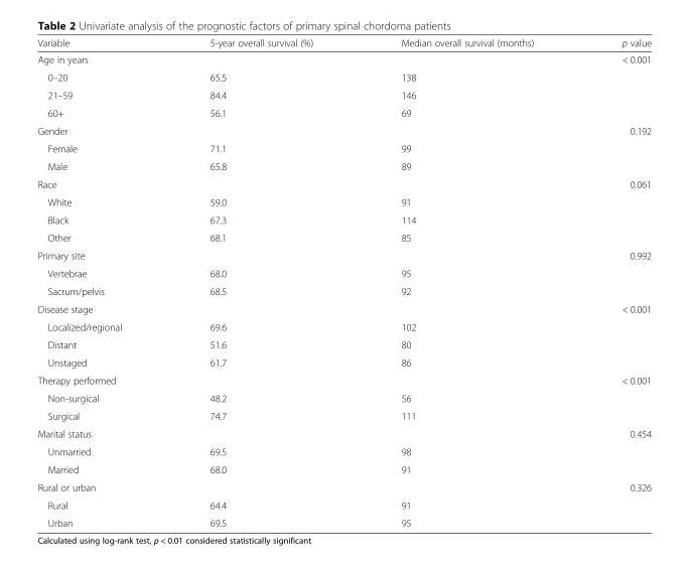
<table><thead><tr><td>Variable</td><td>5-year overall survival (%)</td><td>Median overall survival (months)</td><td>p value</td></tr></thead><tbody><tr><td>Age in years</td><td></td><td></td><td>&lt; 0.001</td></tr><tr><td>0–20</td><td>65.5</td><td>138</td><td></td></tr><tr><td>21–59</td><td>84.4</td><td>146</td><td></td></tr><tr><td>60+</td><td>56.1</td><td>69</td><td></td></tr><tr><td>Gender</td><td></td><td></td><td>0.192</td></tr><tr><td>Female</td><td>71.1</td><td>99</td><td></td></tr><tr><td>Male</td><td>65.8</td><td>89</td><td></td></tr><tr><td>Race</td><td></td><td></td><td>0.061</td></tr><tr><td>White</td><td>59.0</td><td>91</td><td></td></tr><tr><td>Black</td><td>67.3</td><td>114</td><td></td></tr><tr><td>Other</td><td>68.1</td><td>85</td><td></td></tr><tr><td>Primary site</td><td></td><td></td><td>0.992</td></tr><tr><td>Vertebrae</td><td>68.0</td><td>95</td><td></td></tr><tr><td>Sacrum/pelvis</td><td>68.5</td><td>92</td><td></td></tr><tr><td>Disease stage</td><td></td><td></td><td>&lt; 0.001</td></tr><tr><td>Localized/regional</td><td>69.6</td><td>102</td><td></td></tr><tr><td>Distant</td><td>51.6</td><td>80</td><td></td></tr><tr><td>Unstaged</td><td>61.7</td><td>86</td><td></td></tr><tr><td>Therapy performed</td><td></td><td></td><td>&lt; 0.001</td></tr><tr><td>Non-surgical</td><td>48.2</td><td>56</td><td></td></tr><tr><td>Surgical</td><td>74.7</td><td>111</td><td></td></tr><tr><td>Marital status</td><td></td><td></td><td>0.454</td></tr><tr><td>Unmarried</td><td>69.5</td><td>98</td><td></td></tr><tr><td>Married</td><td>68.0</td><td>91</td><td></td></tr><tr><td>Rural or urban</td><td></td><td></td><td>0.326</td></tr><tr><td>Rural</td><td>64.4</td><td>91</td><td></td></tr><tr><td>Urban</td><td>69.5</td><td>95</td><td></td></tr></tbody></table>